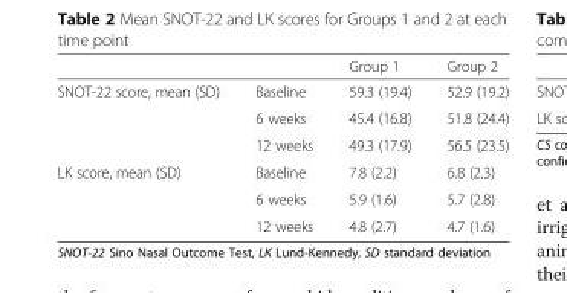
<table><thead><tr><td></td><td></td><td>Group 1</td><td>Group 2</td></tr></thead><tbody><tr><td rowspan="3">SNOT-22 score, mean (SD)</td><td>Baseline</td><td>59.3 (19.4)</td><td>52.9 (19.2)</td></tr><tr><td>6 weeks</td><td>45.4 (16.8)</td><td>51.8 (24.4)</td></tr><tr><td>12 weeks</td><td>49.3 (17.9)</td><td>56.5 (23.5)</td></tr><tr><td rowspan="3">LK score, mean (SD)</td><td>Baseline</td><td>7.8 (2.2)</td><td>6.8 (2.3)</td></tr><tr><td>6 weeks</td><td>5.9 (1.6)</td><td>5.7 (2.8)</td></tr><tr><td>12 weeks</td><td>4.8 (2.7)</td><td>4.7 (1.6)</td></tr></tbody></table>